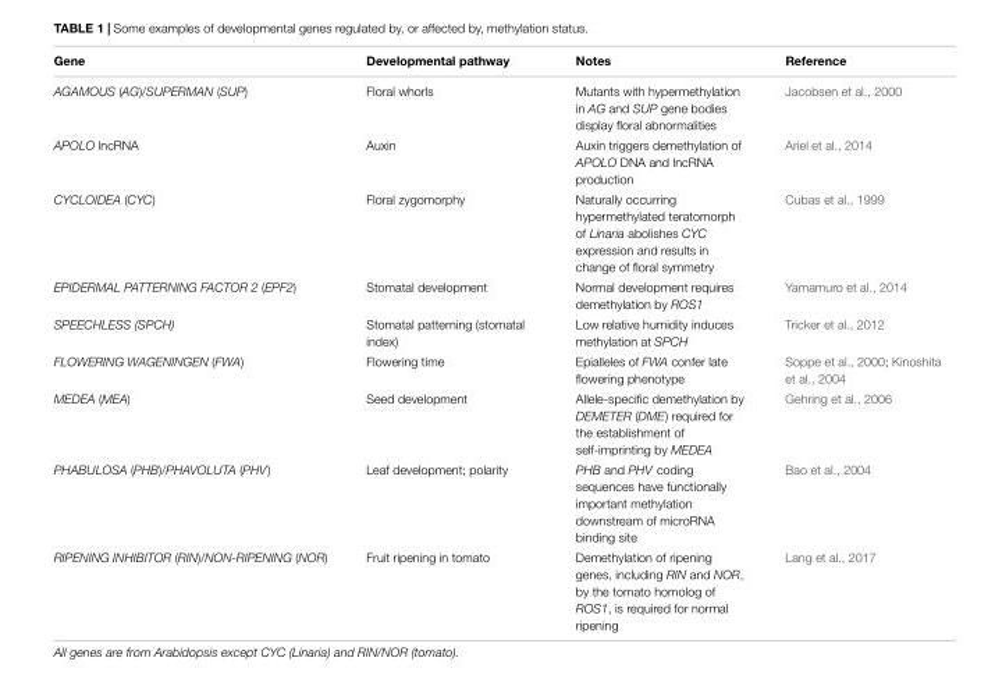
<table><thead><tr><td>Gene</td><td>Developmental pathway</td><td>Notes</td><td>Reference</td></tr></thead><tbody><tr><td>AGAMOUS (AG)/SUPERMAN (SUP)</td><td>Floral whorls</td><td>Mutants with hypermethylation in AG and SUP gene bodies display floral abnormalities</td><td>Jacobsen et al., 2000</td></tr><tr><td>APOLO lncRNA</td><td>Auxin</td><td>Auxin triggers demethylation of APOLO DNA and lncRNA production</td><td>Ariel et al., 2014</td></tr><tr><td>CYCLOIDEA (CYC)</td><td>Floral zygomorphy</td><td>Naturally occurring hypermethylated teratomorph of Linaria abolishes CYC expression and results in change of floral symmetry</td><td>Cubas et al., 1999</td></tr><tr><td>EPIDERMAL PATTERNING FACTOR 2 (EPF2)</td><td>Stomatal development</td><td>Normal development requires demethylation by ROS1</td><td>Yamamuro et al., 2014</td></tr><tr><td>SPEECHLESS (SPCH)</td><td>Stomatal patterning (stomatal index)</td><td>Low relative humidity induces methylation at SPCH</td><td>Tricker et al., 2012</td></tr><tr><td>FLOWERING WAGENINGEN (FWA)</td><td>Flowering time</td><td>Epialleles of FWA confer late flowering phenotype</td><td>Soppe et al., 2000; Kinoshita et al., 2004</td></tr><tr><td>MEDEA (MEA)</td><td>Seed development</td><td>Allele-specific demethylation by DEMETER (DME) required for the establishment of self-imprinting by MEDEA</td><td>Gehring et al., 2006</td></tr><tr><td>PHABULOSA (PHB)/PHAVOLUTA (PHV)</td><td>Leaf development; polarity</td><td>PHB and PHV coding sequences have functionally important methylation downstream of microRNA binding site</td><td>Bao et al., 2004</td></tr><tr><td>RIPENING INHIBITOR (RIN)/NON-RIPENING (NOR)</td><td>Fruit ripening in tomato</td><td>Demethylation of ripening genes, including RIN and NOR, by the tomato homolog of ROS1, is required for normal ripening</td><td>Lang et al., 2017</td></tr></tbody></table>